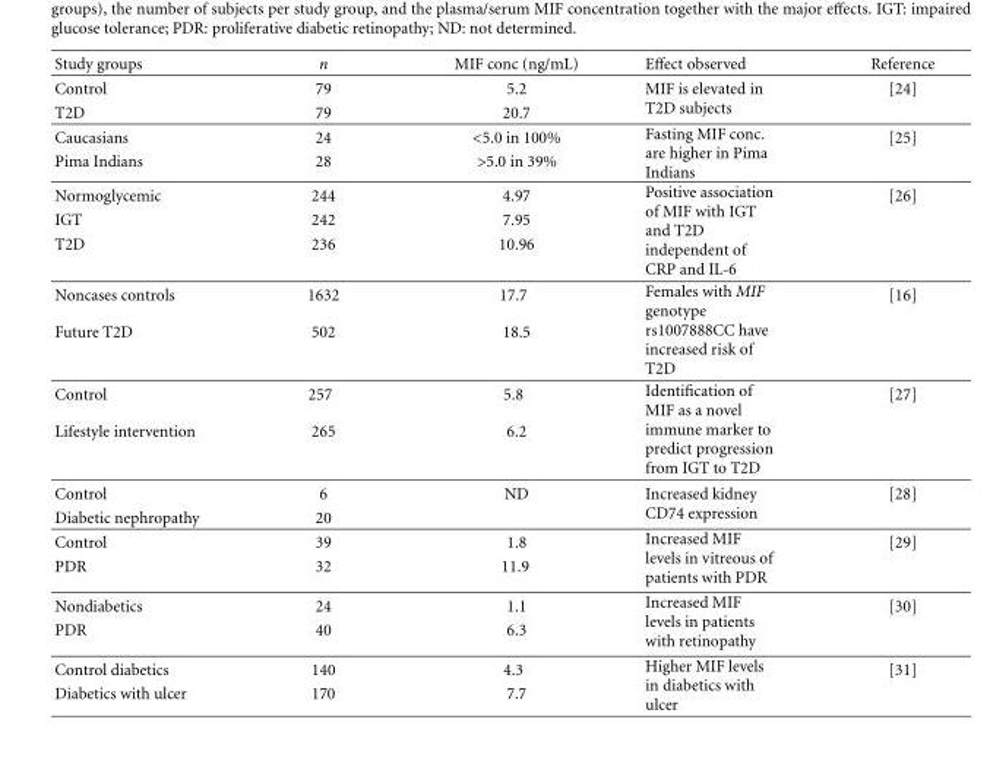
<table><thead><tr><td>Study groups</td><td>n</td><td>MIF conc (ng/mL)</td><td>Effect observed</td><td>Reference</td></tr></thead><tbody><tr><td>Control</td><td>79</td><td>5.2</td><td rowspan="2">MIF is elevated in T2D subjects</td><td>[24]</td></tr><tr><td>T2D</td><td>79</td><td>20.7</td><td></td></tr><tr><td>Caucasians</td><td>24</td><td>&lt;5.0 in 100%</td><td rowspan="2">Fasting MIF conc. are higher in Pima Indians</td><td>[25]</td></tr><tr><td>Pima Indians</td><td>28</td><td>&gt;5.0 in 39%</td><td></td></tr><tr><td>Normoglycemic</td><td>244</td><td>4.97</td><td rowspan="3">Positive association of MIF with IGT and T2D independent of CRP and IL-6</td><td>[26]</td></tr><tr><td>IGT</td><td>242</td><td>7.95</td><td></td></tr><tr><td>T2D</td><td>236</td><td>10.96</td><td></td></tr><tr><td>Noncases controls</td><td>1632</td><td>17.7</td><td rowspan="2">Females with MIF genotype rs1007888CC have increased risk of T2D</td><td>[16]</td></tr><tr><td>Future T2D</td><td>502</td><td>18.5</td><td></td></tr><tr><td>Control</td><td>257</td><td>5.8</td><td rowspan="2">Identification of MIF as a novel immune marker to predict progression from IGT to T2D</td><td>[27]</td></tr><tr><td>Lifestyle intervention</td><td>265</td><td>6.2</td><td></td></tr><tr><td>Control</td><td>6</td><td>ND</td><td rowspan="2">Increased kidney CD74 expression</td><td>[28]</td></tr><tr><td>Diabetic nephropathy</td><td>20</td><td></td><td></td></tr><tr><td>Control</td><td>39</td><td>1.8</td><td rowspan="2">Increased MIF levels in vitreous of patients with PDR</td><td>[29]</td></tr><tr><td>PDR</td><td>32</td><td>11.9</td><td></td></tr><tr><td>Nondiabetics</td><td>24</td><td>1.1</td><td rowspan="2">Increased MIF levels in patients with retinopathy</td><td>[30]</td></tr><tr><td>PDR</td><td>40</td><td>6.3</td><td></td></tr><tr><td>Control diabetics</td><td>140</td><td>4.3</td><td rowspan="2">Higher MIF levels in diabetics with ulcer</td><td>[31]</td></tr><tr><td>Diabetics with ulcer</td><td>170</td><td>7.7</td><td></td></tr></tbody></table>